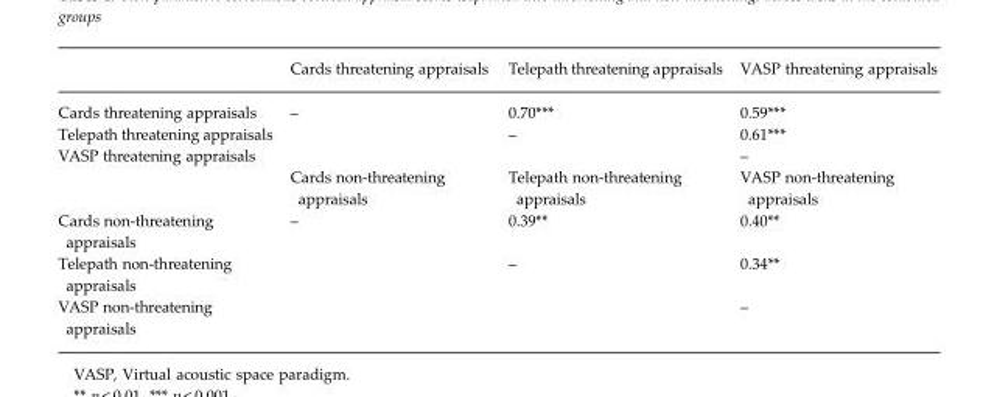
<table><thead><tr><td></td><td>Cards threatening appraisals</td><td>Telepath threatening appraisals</td><td>VASP threatening appraisals</td></tr></thead><tbody><tr><td>Cards threatening appraisals</td><td>–</td><td>0.70***</td><td>0.59***</td></tr><tr><td>Telepath threatening appraisals</td><td></td><td>–</td><td>0.61***</td></tr><tr><td rowspan="2">VASP threatening appraisals</td><td></td><td></td><td>–</td></tr><tr><td>Cards non-threatening appraisals</td><td>Telepath non-threatening appraisals</td><td>VASP non-threatening appraisals</td></tr><tr><td>Cards non-threatening appraisals</td><td>–</td><td>0.39**</td><td>0.40**</td></tr><tr><td>Telepath non-threatening appraisals</td><td></td><td>–</td><td>0.34**</td></tr><tr><td>VASP non-threatening appraisals</td><td></td><td></td><td>–</td></tr></tbody></table>